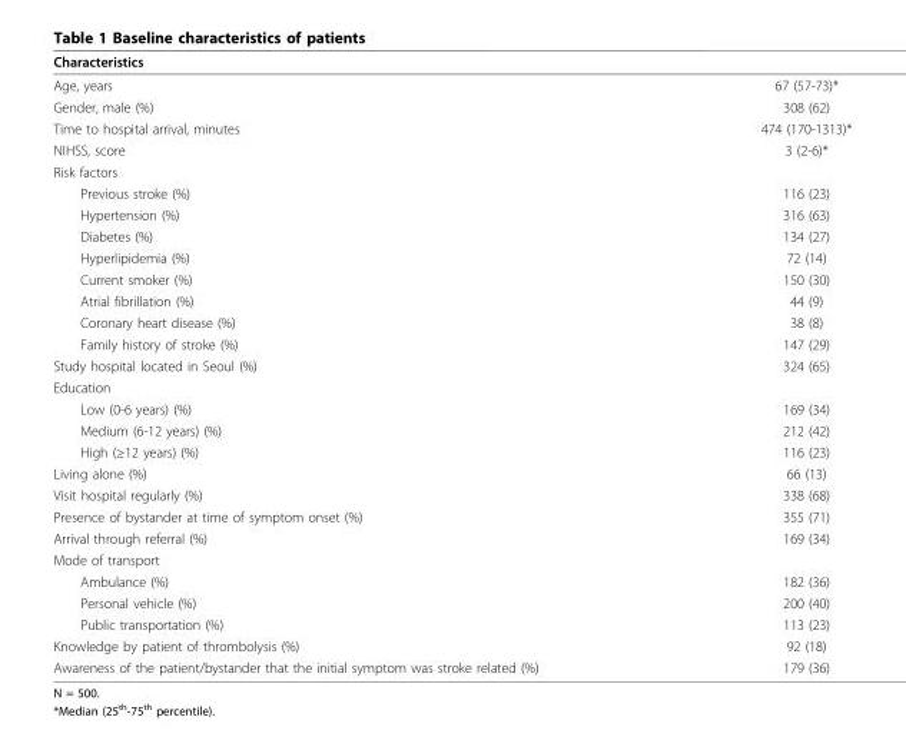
<table><thead><tr><td>Characteristics</td><td></td></tr></thead><tbody><tr><td>Age, years</td><td>67 (57-73)*</td></tr><tr><td>Gender, male (%)</td><td>308 (62)</td></tr><tr><td>Time to hospital arrival, minutes</td><td>474 (170-1313)*</td></tr><tr><td>NIHSS, score</td><td>3 (2-6)*</td></tr><tr><td colspan="2">Risk factors</td></tr><tr><td>Previous stroke (%)</td><td>116 (23)</td></tr><tr><td>Hypertension (%)</td><td>316 (63)</td></tr><tr><td>Diabetes (%)</td><td>134 (27)</td></tr><tr><td>Hyperlipidemia (%)</td><td>72 (14)</td></tr><tr><td>Current smoker (%)</td><td>150 (30)</td></tr><tr><td>Atrial fibrillation (%)</td><td>44 (9)</td></tr><tr><td>Coronary heart disease (%)</td><td>38 (8)</td></tr><tr><td>Family history of stroke (%)</td><td>147 (29)</td></tr><tr><td>Study hospital located in Seoul (%)</td><td>324 (65)</td></tr><tr><td colspan="2">Education</td></tr><tr><td>Low (0-6 years) (%)</td><td>169 (34)</td></tr><tr><td>Medium (6-12 years) (%)</td><td>212 (42)</td></tr><tr><td>High (≥12 years) (%)</td><td>116 (23)</td></tr><tr><td>Living alone (%)</td><td>66 (13)</td></tr><tr><td>Visit hospital regularly (%)</td><td>338 (68)</td></tr><tr><td>Presence of bystander at time of symptom onset (%)</td><td>355 (71)</td></tr><tr><td>Arrival through referral (%)</td><td>169 (34)</td></tr><tr><td colspan="2">Mode of transport</td></tr><tr><td>Ambulance (%)</td><td>182 (36)</td></tr><tr><td>Personal vehicle (%)</td><td>200 (40)</td></tr><tr><td>Public transportation (%)</td><td>113 (23)</td></tr><tr><td>Knowledge by patient of thrombolysis (%)</td><td>92 (18)</td></tr><tr><td>Awareness of the patient/bystander that the initial symptom was stroke related (%)</td><td>179 (36)</td></tr></tbody></table>